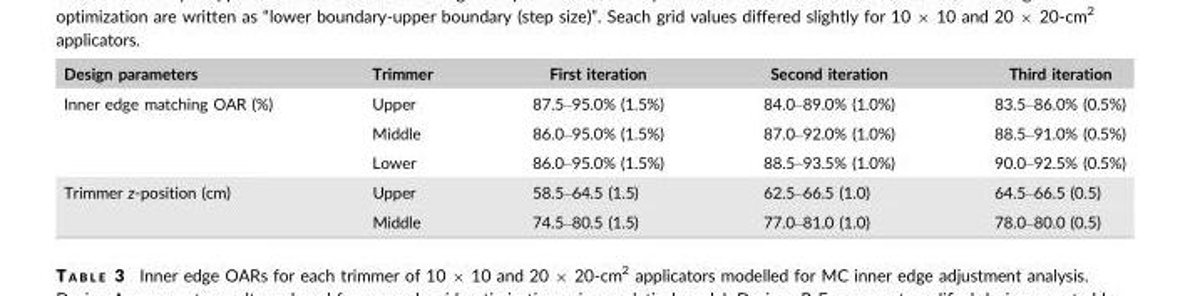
<table><thead><tr><td>Design parameters</td><td>Trimmer</td><td>First iteration</td><td>Second iteration</td><td>Third iteration</td></tr></thead><tbody><tr><td rowspan="3">Inner edge matching OAR (%)</td><td>Upper</td><td>87.5–95.0% (1.5%)</td><td>84.0–89.0% (1.0%)</td><td>83.5–86.0% (0.5%)</td></tr><tr><td>Middle</td><td>86.0–95.0% (1.5%)</td><td>87.0–92.0% (1.0%)</td><td>88.5–91.0% (0.5%)</td></tr><tr><td>Lower</td><td>86.0–95.0% (1.5%)</td><td>88.5–93.5% (1.0%)</td><td>90.0–92.5% (0.5%)</td></tr><tr><td rowspan="2">Trimmer z-position (cm)</td><td>Upper</td><td>58.5–64.5 (1.5)</td><td>62.5–66.5 (1.0)</td><td>64.5–66.5 (0.5)</td></tr><tr><td>Middle</td><td>74.5–80.5 (1.5)</td><td>77.0–81.0 (1.0)</td><td>78.0–80.0 (0.5)</td></tr></tbody></table>